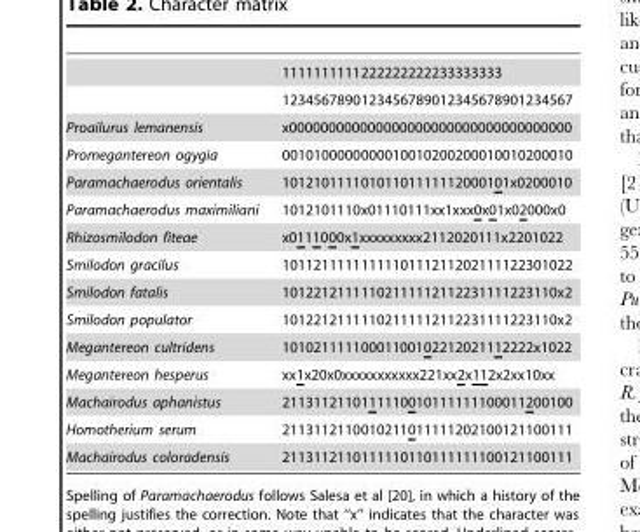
<table><thead><tr><td></td><td>1111111111222222222233333333</td></tr></thead><tbody><tr><td></td><td>1234567890123456789012345678901234567</td></tr><tr><td>Proailurus lemanensis</td><td>x000000000000000000000000000000000000</td></tr><tr><td>Promegantereon ogygia</td><td>0010100000000010010200200010010200010</td></tr><tr><td>Paramachaerodus orientalis</td><td>10121011110101101111112000101x0200010</td></tr><tr><td>Paramachaerodus maximiliani</td><td>1012101110x01110111xx1xxx0x01x02000x0</td></tr><tr><td>Rhizosmilodon fiteae</td><td>x0111000x1xxxxxxxxx2112020111x2201022</td></tr><tr><td>Smilodon gracilus</td><td>1011211111111110111211202111122301022</td></tr><tr><td>Smilodon fatalis</td><td>10122121111102111112112231111223110x2</td></tr><tr><td>Smilodon populator</td><td>10122121111102111112112231111223110x2</td></tr><tr><td>Megantereon cultridens</td><td>10102111110001100102212021112222x1022</td></tr><tr><td>Megantereon hesperus</td><td>xx1x20x0xxxxxxxxxxx221xx2x112x2xx10xx</td></tr><tr><td>Machairodus aphanistus</td><td>2113112110111110010111111100011200100</td></tr><tr><td>Homotherium serum</td><td>2113112110010211011111202100121100111</td></tr><tr><td>Machairodus coloradensis</td><td>2113112110111110110111111100121100111</td></tr></tbody></table>